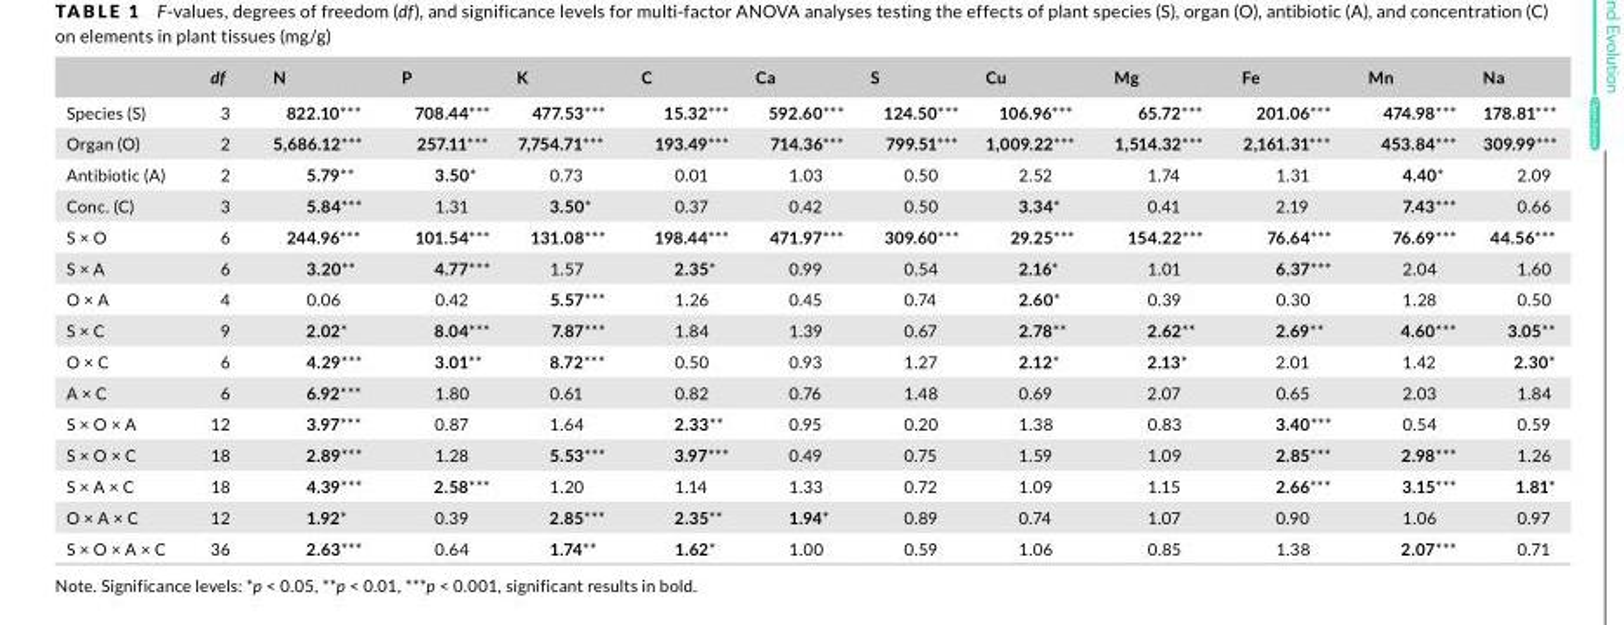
<table><thead><tr><td></td><td>df</td><td>N</td><td>P</td><td>K</td><td>C</td><td>Ca</td><td>S</td><td>Cu</td><td>Mg</td><td>Fe</td><td>Mn</td><td>Na</td></tr></thead><tbody><tr><td>Species (S)</td><td>3</td><td>822.10***</td><td>708.44***</td><td>477.53***</td><td>15.32***</td><td>592.60***</td><td>124.50***</td><td>106.96***</td><td>65.72***</td><td>201.06***</td><td>474.98***</td><td>178.81***</td></tr><tr><td>Organ (O)</td><td>2</td><td>5,686.12***</td><td>257.11***</td><td>7,754.71***</td><td>193.49***</td><td>714.36***</td><td>799.51***</td><td>1,009.22***</td><td>1,514.32***</td><td>2,161.31***</td><td>453.84***</td><td>309.99***</td></tr><tr><td>Antibiotic (A)</td><td>2</td><td>5.79**</td><td>3.50*</td><td>0.73</td><td>0.01</td><td>1.03</td><td>0.50</td><td>2.52</td><td>1.74</td><td>1.31</td><td>4.40*</td><td>2.09</td></tr><tr><td>Conc. (C)</td><td>3</td><td>5.84***</td><td>1.31</td><td>3.50*</td><td>0.37</td><td>0.42</td><td>0.50</td><td>3.34*</td><td>0.41</td><td>2.19</td><td>7.43***</td><td>0.66</td></tr><tr><td>S × O</td><td>6</td><td>244.96***</td><td>101.54***</td><td>131.08***</td><td>198.44***</td><td>471.97***</td><td>309.60***</td><td>29.25***</td><td>154.22***</td><td>76.64***</td><td>76.69***</td><td>44.56***</td></tr><tr><td>S × A</td><td>6</td><td>3.20**</td><td>4.77***</td><td>1.57</td><td>2.35*</td><td>0.99</td><td>0.54</td><td>2.16*</td><td>1.01</td><td>6.37***</td><td>2.04</td><td>1.60</td></tr><tr><td>O × A</td><td>4</td><td>0.06</td><td>0.42</td><td>5.57***</td><td>1.26</td><td>0.45</td><td>0.74</td><td>2.60*</td><td>0.39</td><td>0.30</td><td>1.28</td><td>0.50</td></tr><tr><td>S × C</td><td>9</td><td>2.02*</td><td>8.04***</td><td>7.87***</td><td>1.84</td><td>1.39</td><td>0.67</td><td>2.78**</td><td>2.62**</td><td>2.69**</td><td>4.60***</td><td>3.05**</td></tr><tr><td>O × C</td><td>6</td><td>4.29***</td><td>3.01**</td><td>8.72***</td><td>0.50</td><td>0.93</td><td>1.27</td><td>2.12*</td><td>2.13*</td><td>2.01</td><td>1.42</td><td>2.30*</td></tr><tr><td>A × C</td><td>6</td><td>6.92***</td><td>1.80</td><td>0.61</td><td>0.82</td><td>0.76</td><td>1.48</td><td>0.69</td><td>2.07</td><td>0.65</td><td>2.03</td><td>1.84</td></tr><tr><td>S × O × A</td><td>12</td><td>3.97***</td><td>0.87</td><td>1.64</td><td>2.33**</td><td>0.95</td><td>0.20</td><td>1.38</td><td>0.83</td><td>3.40***</td><td>0.54</td><td>0.59</td></tr><tr><td>S × O × C</td><td>18</td><td>2.89***</td><td>1.28</td><td>5.53***</td><td>3.97***</td><td>0.49</td><td>0.75</td><td>1.59</td><td>1.09</td><td>2.85***</td><td>2.98***</td><td>1.26</td></tr><tr><td>S × A × C</td><td>18</td><td>4.39***</td><td>2.58***</td><td>1.20</td><td>1.14</td><td>1.33</td><td>0.72</td><td>1.09</td><td>1.15</td><td>2.66***</td><td>3.15***</td><td>1.81*</td></tr><tr><td>O × A × C</td><td>12</td><td>1.92*</td><td>0.39</td><td>2.85***</td><td>2.35**</td><td>1.94*</td><td>0.89</td><td>0.74</td><td>1.07</td><td>0.90</td><td>1.06</td><td>0.97</td></tr><tr><td>S × O × A × C</td><td>36</td><td>2.63***</td><td>0.64</td><td>1.74**</td><td>1.62*</td><td>1.00</td><td>0.59</td><td>1.06</td><td>0.85</td><td>1.38</td><td>2.07***</td><td>0.71</td></tr></tbody></table>